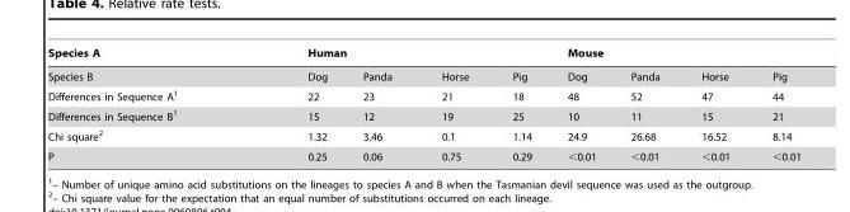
<table><thead><tr><td rowspan="2">Species A Species B</td><td colspan="4">Human</td><td colspan="4">Mouse</td></tr><tr><td>Dog</td><td>Panda</td><td>Horse</td><td>Pig</td><td>Dog</td><td>Panda</td><td>Horse</td><td>Pig</td></tr></thead><tbody><tr><td>Differences in Sequence A<sup>1</sup></td><td>22</td><td>23</td><td>21</td><td>18</td><td>48</td><td>52</td><td>47</td><td>44</td></tr><tr><td>Differences in Sequence B<sup>1</sup></td><td>15</td><td>12</td><td>19</td><td>25</td><td>10</td><td>11</td><td>15</td><td>21</td></tr><tr><td>Chi square<sup>2</sup></td><td>1.32</td><td>3.46</td><td>0.1</td><td>1.14</td><td>24.9</td><td>26.68</td><td>16.52</td><td>8.14</td></tr><tr><td>P</td><td>0.25</td><td>0.06</td><td>0.75</td><td>0.29</td><td>&lt;0.01</td><td>&lt;0.01</td><td>&lt;0.01</td><td>&lt;0.01</td></tr></tbody></table>